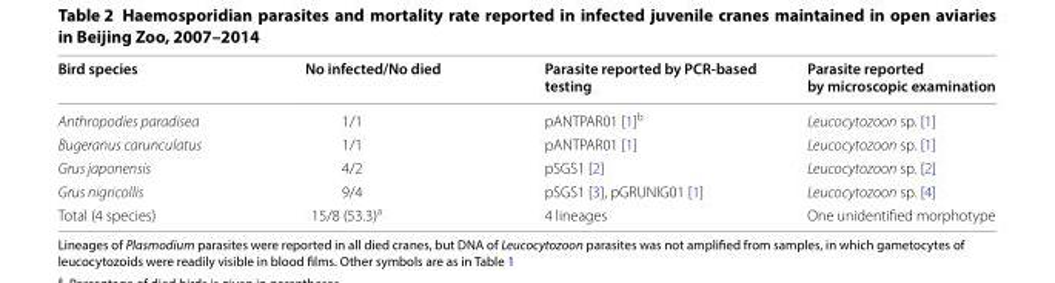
<table><thead><tr><td>Bird species</td><td>No infected/No died</td><td>Parasite reported by PCR‑based testing</td><td>Parasite reported by microscopic examination</td></tr></thead><tbody><tr><td>Anthropodies paradisea</td><td>1/1</td><td>pANTPAR01 [1]<sup>b</sup></td><td>Leucocytozoon sp. [1]</td></tr><tr><td>Bugeranus carunculatus</td><td>1/1</td><td>pANTPAR01 [1]</td><td>Leucocytozoon sp. [1]</td></tr><tr><td>Grus japonensis</td><td>4/2</td><td>pSGS1 [2]</td><td>Leucocytozoon sp. [2]</td></tr><tr><td>Grus nigricollis</td><td>9/4</td><td>pSGS1 [3], pGRUNIG01 [1]</td><td>Leucocytozoon sp. [4]</td></tr><tr><td>Total (4 species)</td><td>15/8 (53.3)<sup>a</sup></td><td>4 lineages</td><td>One unidentified morphotype</td></tr></tbody></table>